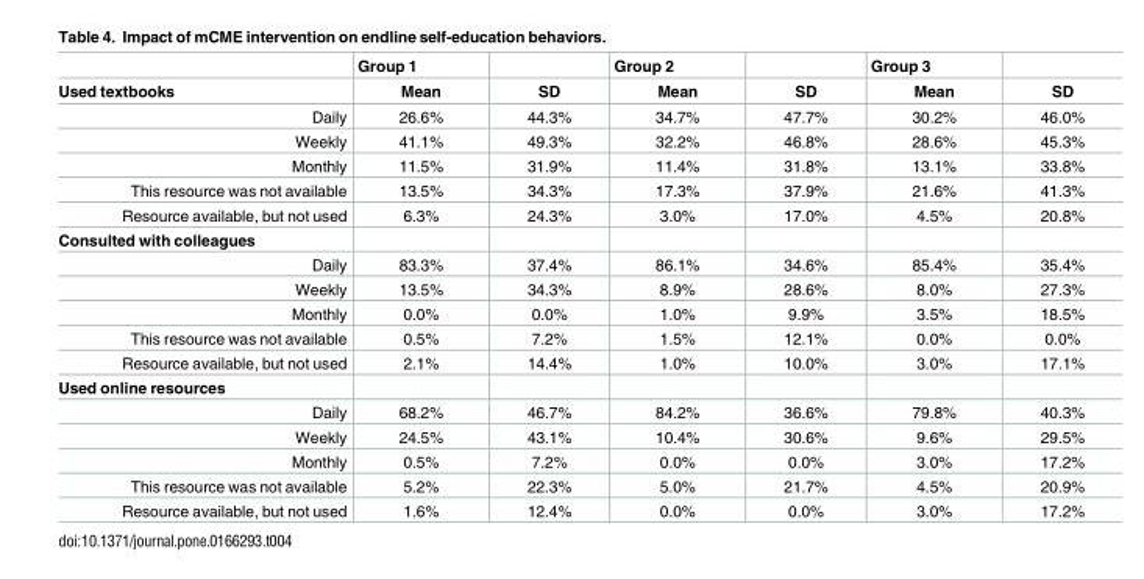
<table><thead><tr><td rowspan="2">Used textbooks</td><td rowspan="2">Group 1 Mean</td><td rowspan="2">SD</td><td rowspan="2">Group 2 Mean</td><td rowspan="2">SD</td><td rowspan="2">Group 3 Mean</td><td rowspan="2">SD</td></tr><tr></tr></thead><tbody><tr><td>Daily</td><td>26.6%</td><td>44.3%</td><td>34.7%</td><td>47.7%</td><td>30.2%</td><td>46.0%</td></tr><tr><td>Weekly</td><td>41.1%</td><td>49.3%</td><td>32.2%</td><td>46.8%</td><td>28.6%</td><td>45.3%</td></tr><tr><td>Monthly</td><td>11.5%</td><td>31.9%</td><td>11.4%</td><td>31.8%</td><td>13.1%</td><td>33.8%</td></tr><tr><td>This resource was not available</td><td>13.5%</td><td>34.3%</td><td>17.3%</td><td>37.9%</td><td>21.6%</td><td>41.3%</td></tr><tr><td>Resource available, but not used</td><td>6.3%</td><td>24.3%</td><td>3.0%</td><td>17.0%</td><td>4.5%</td><td>20.8%</td></tr><tr><td colspan="7">Consulted with colleagues</td></tr><tr><td>Daily</td><td>83.3%</td><td>37.4%</td><td>86.1%</td><td>34.6%</td><td>85.4%</td><td>35.4%</td></tr><tr><td>Weekly</td><td>13.5%</td><td>34.3%</td><td>8.9%</td><td>28.6%</td><td>8.0%</td><td>27.3%</td></tr><tr><td>Monthly</td><td>0.0%</td><td>0.0%</td><td>1.0%</td><td>9.9%</td><td>3.5%</td><td>18.5%</td></tr><tr><td>This resource was not available</td><td>0.5%</td><td>7.2%</td><td>1.5%</td><td>12.1%</td><td>0.0%</td><td>0.0%</td></tr><tr><td>Resource available, but not used</td><td>2.1%</td><td>14.4%</td><td>1.0%</td><td>10.0%</td><td>3.0%</td><td>17.1%</td></tr><tr><td colspan="7">Used online resources</td></tr><tr><td>Daily</td><td>68.2%</td><td>46.7%</td><td>84.2%</td><td>36.6%</td><td>79.8%</td><td>40.3%</td></tr><tr><td>Weekly</td><td>24.5%</td><td>43.1%</td><td>10.4%</td><td>30.6%</td><td>9.6%</td><td>29.5%</td></tr><tr><td>Monthly</td><td>0.5%</td><td>7.2%</td><td>0.0%</td><td>0.0%</td><td>3.0%</td><td>17.2%</td></tr><tr><td>This resource was not available</td><td>5.2%</td><td>22.3%</td><td>5.0%</td><td>21.7%</td><td>4.5%</td><td>20.9%</td></tr><tr><td>Resource available, but not used</td><td>1.6%</td><td>12.4%</td><td>0.0%</td><td>0.0%</td><td>3.0%</td><td>17.2%</td></tr></tbody></table>